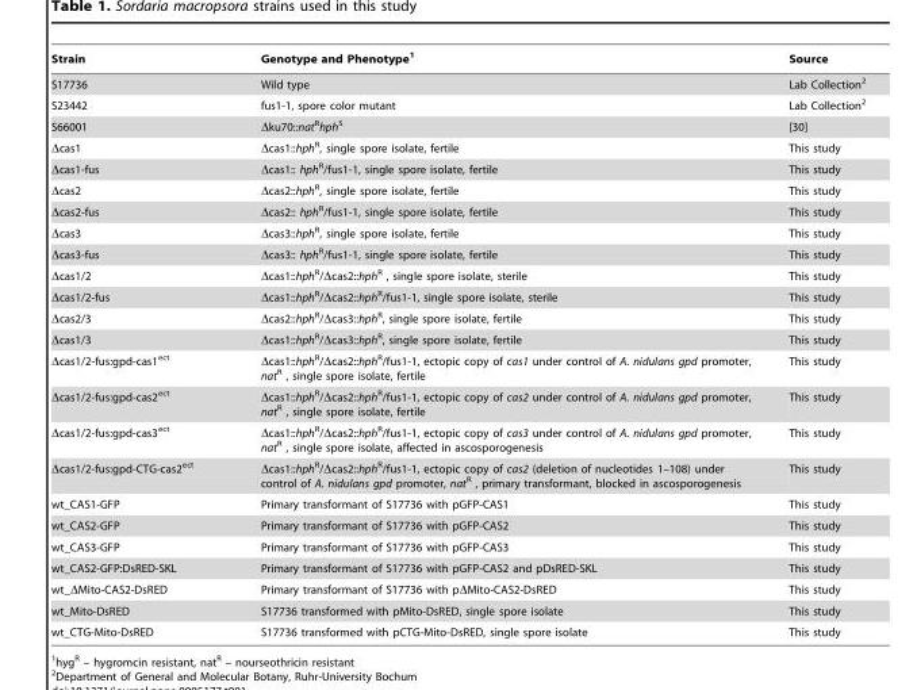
<table><thead><tr><td>Strain</td><td>Genotype and Phenotype<sup>1</sup></td><td>Source</td></tr></thead><tbody><tr><td>S17736</td><td>Wild type</td><td>Lab Collection<sup>2</sup></td></tr><tr><td>S23442</td><td>fus1-1, spore color mutant</td><td>Lab Collection<sup>2</sup></td></tr><tr><td>S66001</td><td>Δku70::nat<sup>R</sup>hph<sup>S</sup></td><td>[30]</td></tr><tr><td>Δcas1</td><td>Δcas1::hph<sup>R</sup>, single spore isolate, fertile</td><td>This study</td></tr><tr><td>Δcas1-fus</td><td>Δcas1:: hph<sup>R</sup>/fus1-1, single spore isolate, fertile</td><td>This study</td></tr><tr><td>Δcas2</td><td>Δcas2::hph<sup>R</sup>, single spore isolate, fertile</td><td>This study</td></tr><tr><td>Δcas2-fus</td><td>Δcas2:: hph<sup>R</sup>/fus1-1, single spore isolate, fertile</td><td>This study</td></tr><tr><td>Δcas3</td><td>Δcas3::hph<sup>R</sup>, single spore isolate, fertile</td><td>This study</td></tr><tr><td>Δcas3-fus</td><td>Δcas3:: hph<sup>R</sup>/fus1-1, single spore isolate, fertile</td><td>This study</td></tr><tr><td>Δcas1/2</td><td>Δcas1::hph<sup>R</sup>/Δcas2::hph<sup>R</sup> , single spore isolate, sterile</td><td>This study</td></tr><tr><td>Δcas1/2-fus</td><td>Δcas1::hph<sup>R</sup>/Δcas2::hph<sup>R</sup>/fus1-1, single spore isolate, sterile</td><td>This study</td></tr><tr><td>Δcas2/3</td><td>Δcas2::hph<sup>R</sup>/Δcas3::hph<sup>R</sup>, single spore isolate, fertile</td><td>This study</td></tr><tr><td>Δcas1/3</td><td>Δcas1::hph<sup>R</sup>/Δcas3::hph<sup>R</sup>, single spore isolate, fertile</td><td>This study</td></tr><tr><td>Δcas1/2-fus:gpd-cas1<sup>ect</sup></td><td>Δcas1::hph<sup>R</sup>/Δcas2::hph<sup>R</sup>/fus1-1, ectopic copy of cas1 under control of A. nidulans gpd promoter, nat<sup>R</sup> , single spore isolate, fertile</td><td>This study</td></tr><tr><td>Δcas1/2-fus:gpd-cas2<sup>ect</sup></td><td>Δcas1::hph<sup>R</sup>/Δcas2::hph<sup>R</sup>/fus1-1, ectopic copy of cas2 under control of A. nidulans gpd promoter, nat<sup>R</sup> , single spore isolate, fertile</td><td>This study</td></tr><tr><td>Δcas1/2-fus:gpd-cas3<sup>ect</sup></td><td>Δcas1::hph<sup>R</sup>/Δcas2::hph<sup>R</sup>/fus1-1, ectopic copy of cas3 under control of A. nidulans gpd promoter, nat<sup>R</sup> , single spore isolate, affected in ascosporogenesis</td><td>This study</td></tr><tr><td>Δcas1/2-fus:gpd-CTG-cas2<sup>ect</sup></td><td>Δcas1::hph<sup>R</sup>/Δcas2::hph<sup>R</sup>/fus1-1, ectopic copy of cas2 (deletion of nucleotides 1–108) under control of A. nidulans gpd promoter, nat<sup>R</sup> , primary transformant, blocked in ascosporogenesis</td><td>This study</td></tr><tr><td>wt_CAS1-GFP</td><td>Primary transformant of S17736 with pGFP-CAS1</td><td>This study</td></tr><tr><td>wt_CAS2-GFP</td><td>Primary transformant of S17736 with pGFP-CAS2</td><td>This study</td></tr><tr><td>wt_CAS3-GFP</td><td>Primary transformant of S17736 with pGFP-CAS3</td><td>This study</td></tr><tr><td>wt_CAS2-GFP:DsRED-SKL</td><td>Primary transformant of S17736 with pGFP-CAS2 and pDsRED-SKL</td><td>This study</td></tr><tr><td>wt_ΔMito-CAS2-DsRED</td><td>Primary transformant of S17736 with pΔMito-CAS2-DsRED</td><td>This study</td></tr><tr><td>wt_Mito-DsRED</td><td>S17736 transformed with pMito-DsRED, single spore isolate</td><td>This study</td></tr><tr><td>wt_CTG-Mito-DsRED</td><td>S17736 transformed with pCTG-Mito-DsRED, single spore isolate</td><td>This study</td></tr></tbody></table>